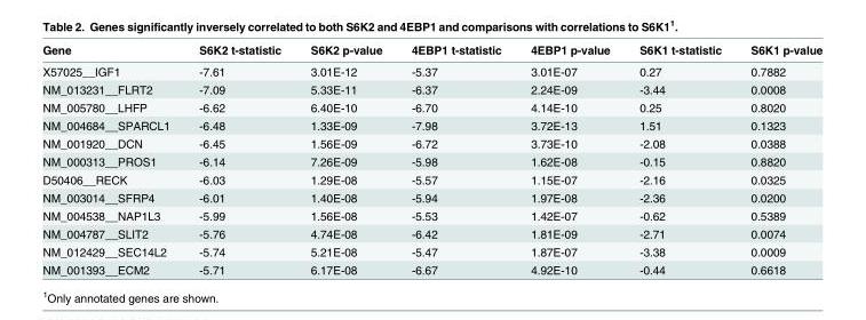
<table><thead><tr><td>Gene</td><td>S6K2 t-statistic</td><td>S6K2 p-value</td><td>4EBP1 t-statistic</td><td>4EBP1 p-value</td><td>S6K1 t-statistic</td><td>S6K1 p-value</td></tr></thead><tbody><tr><td>X57025__IGF1</td><td>-7.61</td><td>3.01E-12</td><td>-5.37</td><td>3.01E-07</td><td>0.27</td><td>0.7882</td></tr><tr><td>NM_013231__FLRT2</td><td>-7.09</td><td>5.33E-11</td><td>-6.37</td><td>2.24E-09</td><td>-3.44</td><td>0.0008</td></tr><tr><td>NM_005780__LHFP</td><td>-6.62</td><td>6.40E-10</td><td>-6.70</td><td>4.14E-10</td><td>0.25</td><td>0.8020</td></tr><tr><td>NM_004684__SPARCL1</td><td>-6.48</td><td>1.33E-09</td><td>-7.98</td><td>3.72E-13</td><td>1.51</td><td>0.1323</td></tr><tr><td>NM_001920__DCN</td><td>-6.45</td><td>1.56E-09</td><td>-6.72</td><td>3.73E-10</td><td>-2.08</td><td>0.0388</td></tr><tr><td>NM_000313__PROS1</td><td>-6.14</td><td>7.26E-09</td><td>-5.98</td><td>1.62E-08</td><td>-0.15</td><td>0.8820</td></tr><tr><td>D50406__RECK</td><td>-6.03</td><td>1.29E-08</td><td>-5.57</td><td>1.15E-07</td><td>-2.16</td><td>0.0325</td></tr><tr><td>NM_003014__SFRP4</td><td>-6.01</td><td>1.40E-08</td><td>-5.94</td><td>1.97E-08</td><td>-2.36</td><td>0.0200</td></tr><tr><td>NM_004538__NAP1L3</td><td>-5.99</td><td>1.56E-08</td><td>-5.53</td><td>1.42E-07</td><td>-0.62</td><td>0.5389</td></tr><tr><td>NM_004787__SLIT2</td><td>-5.76</td><td>4.74E-08</td><td>-6.42</td><td>1.81E-09</td><td>-2.71</td><td>0.0074</td></tr><tr><td>NM_012429__SEC14L2</td><td>-5.74</td><td>5.21E-08</td><td>-5.47</td><td>1.87E-07</td><td>-3.38</td><td>0.0009</td></tr><tr><td>NM_001393__ECM2</td><td>-5.71</td><td>6.17E-08</td><td>-6.67</td><td>4.92E-10</td><td>-0.44</td><td>0.6618</td></tr></tbody></table>